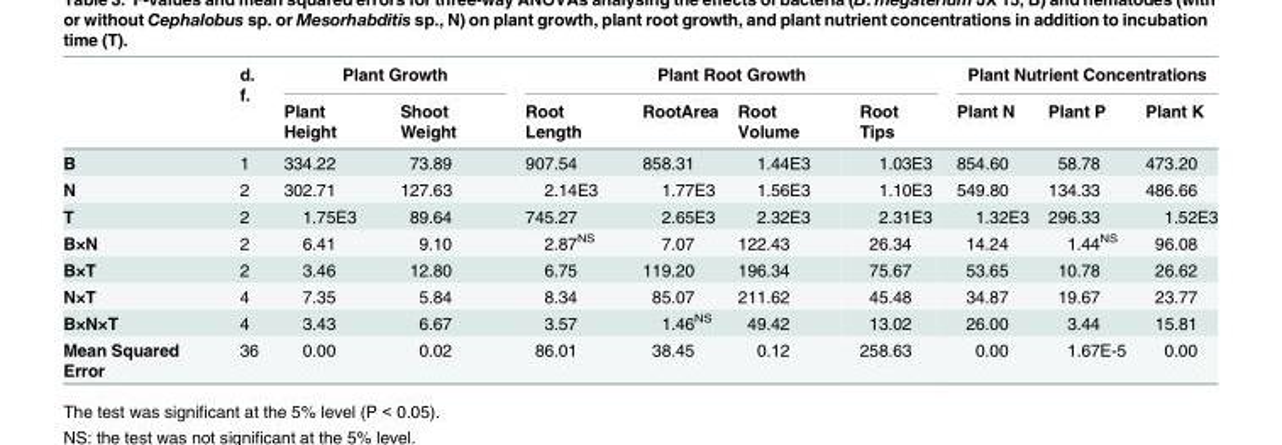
<table><thead><tr><td rowspan="2"></td><td rowspan="2">d. f.</td><td colspan="2">Plant Growth</td><td colspan="4">Plant Root Growth</td><td colspan="3">Plant Nutrient Concentrations</td></tr><tr><td>Plant Height</td><td>Shoot Weight</td><td>Root Length</td><td>RootArea</td><td>Root Volume</td><td>Root Tips</td><td>Plant N</td><td>Plant P</td><td>Plant K</td></tr></thead><tbody><tr><td>B</td><td>1</td><td>334.22</td><td>73.89</td><td>907.54</td><td>858.31</td><td>1.44E3</td><td>1.03E3</td><td>854.60</td><td>58.78</td><td>473.20</td></tr><tr><td>N</td><td>2</td><td>302.71</td><td>127.63</td><td>2.14E3</td><td>1.77E3</td><td>1.56E3</td><td>1.10E3</td><td>549.80</td><td>134.33</td><td>486.66</td></tr><tr><td>T</td><td>2</td><td>1.75E3</td><td>89.64</td><td>745.27</td><td>2.65E3</td><td>2.32E3</td><td>2.31E3</td><td>1.32E3</td><td>296.33</td><td>1.52E3</td></tr><tr><td>B×N</td><td>2</td><td>6.41</td><td>9.10</td><td>2.87<sup>NS</sup></td><td>7.07</td><td>122.43</td><td>26.34</td><td>14.24</td><td>1.44<sup>NS</sup></td><td>96.08</td></tr><tr><td>B×T</td><td>2</td><td>3.46</td><td>12.80</td><td>6.75</td><td>119.20</td><td>196.34</td><td>75.67</td><td>53.65</td><td>10.78</td><td>26.62</td></tr><tr><td>N×T</td><td>4</td><td>7.35</td><td>5.84</td><td>8.34</td><td>85.07</td><td>211.62</td><td>45.48</td><td>34.87</td><td>19.67</td><td>23.77</td></tr><tr><td>B×N×T</td><td>4</td><td>3.43</td><td>6.67</td><td>3.57</td><td>1.46<sup>NS</sup></td><td>49.42</td><td>13.02</td><td>26.00</td><td>3.44</td><td>15.81</td></tr><tr><td>Mean Squared Error</td><td>36</td><td>0.00</td><td>0.02</td><td>86.01</td><td>38.45</td><td>0.12</td><td>258.63</td><td>0.00</td><td>1.67E-5</td><td>0.00</td></tr></tbody></table>